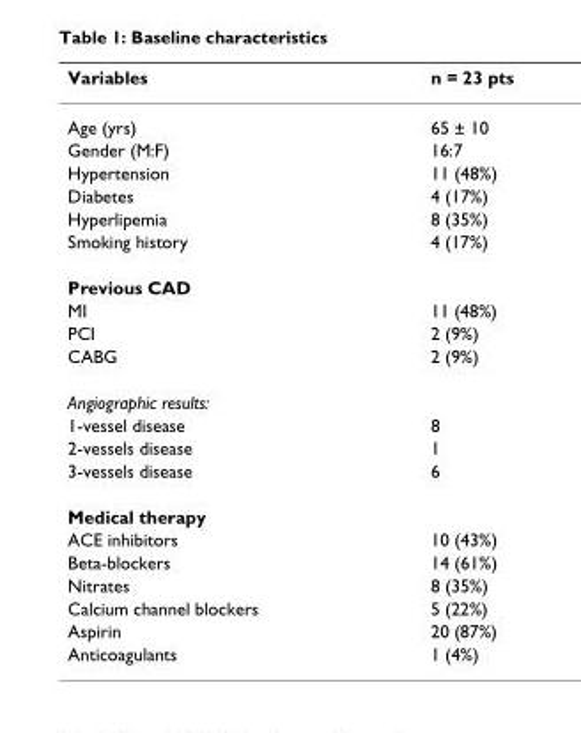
<table><thead><tr><td>Variables</td><td>n = 23 pts</td></tr></thead><tbody><tr><td>Age (yrs)</td><td>65 ± 10</td></tr><tr><td>Gender (M:F)</td><td>16:7</td></tr><tr><td>Hypertension</td><td>11 (48%)</td></tr><tr><td>Diabetes</td><td>4 (17%)</td></tr><tr><td>Hyperlipemia</td><td>8 (35%)</td></tr><tr><td>Smoking history</td><td>4 (17%)</td></tr><tr><td colspan="2">Previous CAD</td></tr><tr><td>MI</td><td>11 (48%)</td></tr><tr><td>PCI</td><td>2 (9%)</td></tr><tr><td>CABG</td><td>2 (9%)</td></tr><tr><td colspan="2">Angiographic results:</td></tr><tr><td>1-vessel disease</td><td>8</td></tr><tr><td>2-vessels disease</td><td>1</td></tr><tr><td>3-vessels disease</td><td>6</td></tr><tr><td colspan="2">Medical therapy</td></tr><tr><td>ACE inhibitors</td><td>10 (43%)</td></tr><tr><td>Beta-blockers</td><td>14 (61%)</td></tr><tr><td>Nitrates</td><td>8 (35%)</td></tr><tr><td>Calcium channel blockers</td><td>5 (22%)</td></tr><tr><td>Aspirin</td><td>20 (87%)</td></tr><tr><td>Anticoagulants</td><td>1 (4%)</td></tr></tbody></table>